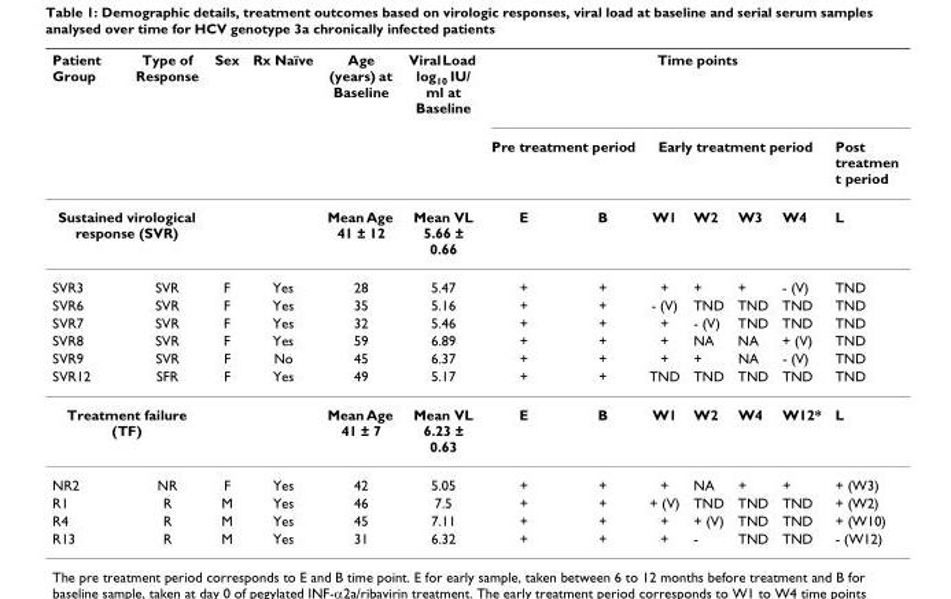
<table><thead><tr><td rowspan="2">Patient Group</td><td rowspan="2">Type of Response</td><td rowspan="3">Sex</td><td rowspan="3">Rx Naïve</td><td rowspan="3">Age (years) at Baseline Mean Age 41 ± 12</td><td rowspan="3">Viral Load log10 IU/ ml at Baseline Mean VL 5.66 ± 0.66</td><td colspan="7">Time points</td></tr><tr><td colspan="2">Pre treatment period</td><td colspan="4">Early treatment period</td><td rowspan="2">Post treatmen t period L</td></tr><tr><td colspan="2">Sustained virological response (SVR)</td><td>E</td><td>B</td><td>W1</td><td>W2</td><td>W3</td><td>W4</td></tr></thead><tbody><tr><td>SVR3</td><td>SVR</td><td>F</td><td>Yes</td><td>28</td><td>5.47</td><td>+</td><td>+</td><td>+</td><td>+</td><td>+</td><td>- (V)</td><td>TND</td></tr><tr><td>SVR6</td><td>SVR</td><td>F</td><td>Yes</td><td>35</td><td>5.16</td><td>+</td><td>+</td><td>- (V)</td><td>TND</td><td>TND</td><td>TND</td><td>TND</td></tr><tr><td>SVR7</td><td>SVR</td><td>F</td><td>Yes</td><td>32</td><td>5.46</td><td>+</td><td>+</td><td>+</td><td>- (V)</td><td>TND</td><td>TND</td><td>TND</td></tr><tr><td>SVR8</td><td>SVR</td><td>F</td><td>Yes</td><td>59</td><td>6.89</td><td>+</td><td>+</td><td>+</td><td>NA</td><td>NA</td><td>+ (V)</td><td>TND</td></tr><tr><td>SVR9</td><td>SVR</td><td>F</td><td>No</td><td>45</td><td>6.37</td><td>+</td><td>+</td><td>+</td><td>+</td><td>NA</td><td>- (V)</td><td>TND</td></tr><tr><td>SVR12</td><td>SFR</td><td>F</td><td>Yes</td><td>49</td><td>5.17</td><td>+</td><td>+</td><td>TND</td><td>TND</td><td>TND</td><td>TND</td><td>TND</td></tr><tr><td colspan="2">Treatment failure (TF)</td><td></td><td></td><td>Mean Age 41 ± 7</td><td>Mean VL 6.23 ± 0.63</td><td>E</td><td>B</td><td>W1</td><td>W2</td><td>W4</td><td>W12*</td><td>L</td></tr><tr><td>NR2</td><td>NR</td><td>F</td><td>Yes</td><td>42</td><td>5.05</td><td>+</td><td>+</td><td>+</td><td>NA</td><td>+</td><td>+</td><td>+ (W3)</td></tr><tr><td>R1</td><td>R</td><td>M</td><td>Yes</td><td>46</td><td>7.5</td><td>+</td><td>+</td><td>+ (V)</td><td>TND</td><td>TND</td><td>TND</td><td>+ (W2)</td></tr><tr><td>R4</td><td>R</td><td>M</td><td>Yes</td><td>45</td><td>7.11</td><td>+</td><td>+</td><td>+</td><td>+ (V)</td><td>TND</td><td>TND</td><td>+ (W10)</td></tr><tr><td>R13</td><td>R</td><td>M</td><td>Yes</td><td>31</td><td>6.32</td><td>+</td><td>+</td><td>+</td><td>-</td><td>TND</td><td>TND</td><td>- (W12)</td></tr></tbody></table>